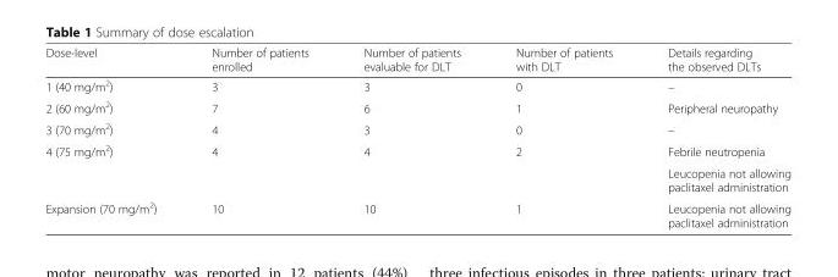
<table><thead><tr><td>Dose-level</td><td>Number of patients enrolled</td><td>Number of patients evaluable for DLT</td><td>Number of patients with DLT</td><td>Details regarding the observed DLTs</td></tr></thead><tbody><tr><td>1 (40 mg/m<sup>2</sup>)</td><td>3</td><td>3</td><td>0</td><td>–</td></tr><tr><td>2 (60 mg/m<sup>2</sup>)</td><td>7</td><td>6</td><td>1</td><td>Peripheral neuropathy</td></tr><tr><td>3 (70 mg/m<sup>2</sup>)</td><td>4</td><td>3</td><td>0</td><td>–</td></tr><tr><td rowspan="2">4 (75 mg/m<sup>2</sup>)</td><td rowspan="2">4</td><td rowspan="2">4</td><td rowspan="2">2</td><td>Febrile neutropenia</td></tr><tr><td>Leucopenia not allowing paclitaxel administration</td></tr><tr><td>Expansion (70 mg/m<sup>2</sup>)</td><td>10</td><td>10</td><td>1</td><td>Leucopenia not allowing paclitaxel administration</td></tr></tbody></table>